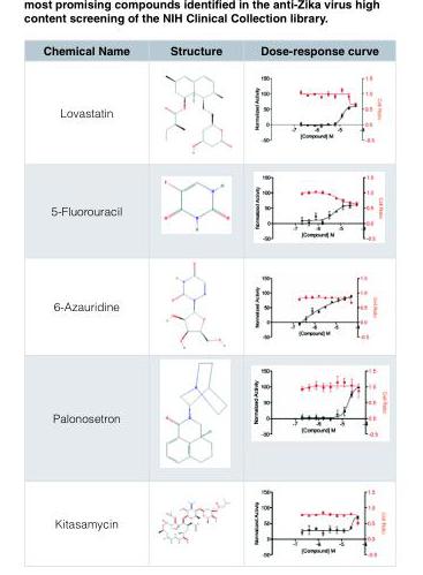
<table><thead><tr><td>Chemical Name</td><td>Structure</td><td>Dose-response curve</td></tr></thead><tbody><tr><td colspan="3">Lovastatin</td></tr><tr><td colspan="3">5-Fluorouracil</td></tr><tr><td colspan="3">6-Azauridine</td></tr><tr><td colspan="3">Palonosetron</td></tr><tr><td>Kitasamycin</td><td></td><td></td></tr></tbody></table>